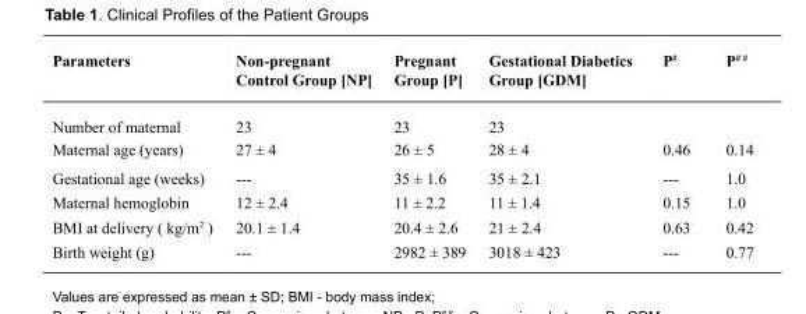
<table><thead><tr><td>Parameters</td><td>Non-pregnant Control Group [NP]</td><td>Pregnant Group [P]</td><td>Gestational Diabetics Group [GDM]</td><td>P<sup>#</sup></td><td>P<sup># #</sup></td></tr></thead><tbody><tr><td>Number of maternal</td><td>23</td><td>23</td><td>23</td><td></td><td></td></tr><tr><td>Maternal age (years)</td><td>27 ± 4</td><td>26 ± 5</td><td>28 ± 4</td><td>0.46</td><td>0.14</td></tr><tr><td>Gestational age (weeks)</td><td>---</td><td>35 ± 1.6</td><td>35 ± 2.1</td><td>---</td><td>1.0</td></tr><tr><td>Maternal hemoglobin</td><td>12 ± 2.4</td><td>11 ± 2.2</td><td>11 ± 1.4</td><td>0.15</td><td>1.0</td></tr><tr><td>BMI at delivery ( kg/m<sup>2</sup> )</td><td>20.1 ± 1.4</td><td>20.4 ± 2.6</td><td>21 ± 2.4</td><td>0.63</td><td>0.42</td></tr><tr><td>Birth weight (g)</td><td>---</td><td>2982 ± 389</td><td>3018 ± 423</td><td>---</td><td>0.77</td></tr></tbody></table>